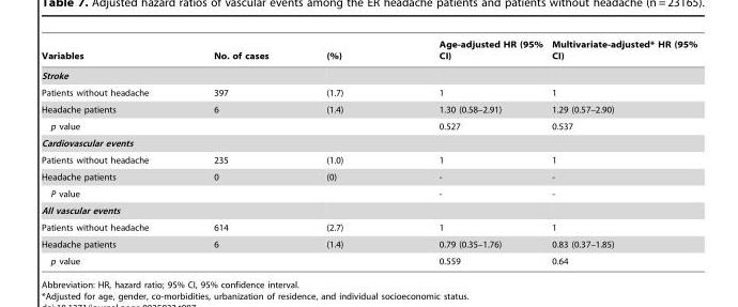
<table><thead><tr><td>Variables</td><td>No. of cases</td><td>(%)</td><td>Age-adjusted HR (95% CI)</td><td>Multivariate-adjusted* HR (95% CI)</td></tr></thead><tbody><tr><td colspan="5">Stroke</td></tr><tr><td>Patients without headache</td><td>397</td><td>(1.7)</td><td>1</td><td>1</td></tr><tr><td>Headache patients</td><td>6</td><td>(1.4)</td><td>1.30 (0.58–2.91)</td><td>1.29 (0.57–2.90)</td></tr><tr><td>p value</td><td></td><td></td><td>0.527</td><td>0.537</td></tr><tr><td colspan="5">Cardiovascular events</td></tr><tr><td>Patients without headache</td><td>235</td><td>(1.0)</td><td>1</td><td>1</td></tr><tr><td>Headache patients</td><td>0</td><td>(0)</td><td>-</td><td>-</td></tr><tr><td>P value</td><td></td><td></td><td>-</td><td>-</td></tr><tr><td colspan="5">All vascular events</td></tr><tr><td>Patients without headache</td><td>614</td><td>(2.7)</td><td>1</td><td>1</td></tr><tr><td>Headache patients</td><td>6</td><td>(1.4)</td><td>0.79 (0.35–1.76)</td><td>0.83 (0.37–1.85)</td></tr><tr><td>p value</td><td></td><td></td><td>0.559</td><td>0.64</td></tr></tbody></table>